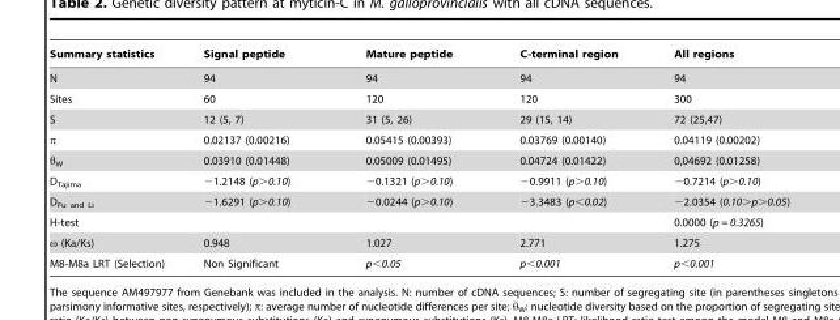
<table><thead><tr><td>Summary statistics</td><td>Signal peptide</td><td>Mature peptide</td><td>C-terminal region</td><td>All regions</td></tr></thead><tbody><tr><td>N</td><td>94</td><td>94</td><td>94</td><td>94</td></tr><tr><td>Sites</td><td>60</td><td>120</td><td>120</td><td>300</td></tr><tr><td>S</td><td>12 (5, 7)</td><td>31 (5, 26)</td><td>29 (15, 14)</td><td>72 (25,47)</td></tr><tr><td>π</td><td>0.02137 (0.00216)</td><td>0.05415 (0.00393)</td><td>0.03769 (0.00140)</td><td>0.04119 (0.00202)</td></tr><tr><td>θ<sub>W</sub></td><td>0.03910 (0.01448)</td><td>0.05009 (0.01495)</td><td>0.04724 (0.01422)</td><td>0,04692 (0.01258)</td></tr><tr><td>D<sub>Tajima</sub></td><td>−1.2148 (p&gt;0.10)</td><td>−0.1321 (p&gt;0.10)</td><td>−0.9911 (p&gt;0.10)</td><td>−0.7214 (p&gt;0.10)</td></tr><tr><td>D<sub>Fu and Li</sub></td><td>−1.6291 (p&gt;0.10)</td><td>−0.0244 (p&gt;0.10)</td><td>−3.3483 (p&lt;0.02)</td><td>−2.0354 (0.10&gt;p&gt;0.05)</td></tr><tr><td>H-test</td><td></td><td></td><td></td><td>0.0000 (p = 0.3265)</td></tr><tr><td>ω (Ka/Ks)</td><td>0.948</td><td>1.027</td><td>2.771</td><td>1.275</td></tr><tr><td>M8-M8a LRT (Selection)</td><td>Non Significant</td><td>p&lt;0.05</td><td>p&lt;0.001</td><td>p&lt;0.001</td></tr></tbody></table>